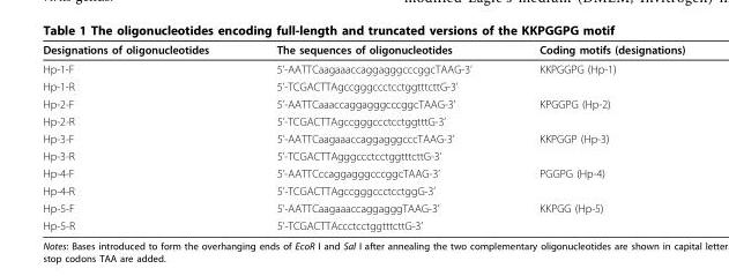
<table><thead><tr><td>Designations of oligonucleotides</td><td>The sequences of oligonucleotides</td><td>Coding motifs (designations)</td></tr></thead><tbody><tr><td>Hp-1-F</td><td>5’-AATTCaagaaaccaggagggcccggcTAAG-3’</td><td>KKPGGPG (Hp-1)</td></tr><tr><td>Hp-1-R</td><td>5’-TCGACTTAgccgggccctcctggtttcttG-3’</td><td></td></tr><tr><td>Hp-2-F</td><td>5’-AATTCaaaccaggagggcccggcTAAG-3’</td><td>KPGGPG (Hp-2)</td></tr><tr><td>Hp-2-R</td><td>5’-TCGACTTAgccgggccctcctggtttG-3’</td><td></td></tr><tr><td>Hp-3-F</td><td>5’-AATTCaagaaaccaggagggcccTAAG-3’</td><td>KKPGGP (Hp-3)</td></tr><tr><td>Hp-3-R</td><td>5’-TCGACTTAgggccctcctggtttcttG-3’</td><td></td></tr><tr><td>Hp-4-F</td><td>5’-AATTCccaggagggcccggcTAAG-3’</td><td>PGGPG (Hp-4)</td></tr><tr><td>Hp-4-R</td><td>5’-TCGACTTAgccgggccctcctggG-3’</td><td></td></tr><tr><td>Hp-5-F</td><td>5’-AATTCaagaaaccaggagggTAAG-3’</td><td>KKPGG (Hp-5)</td></tr><tr><td>Hp-5-R</td><td>5’-TCGACTTAccctcctggtttcttG-3’</td><td></td></tr></tbody></table>